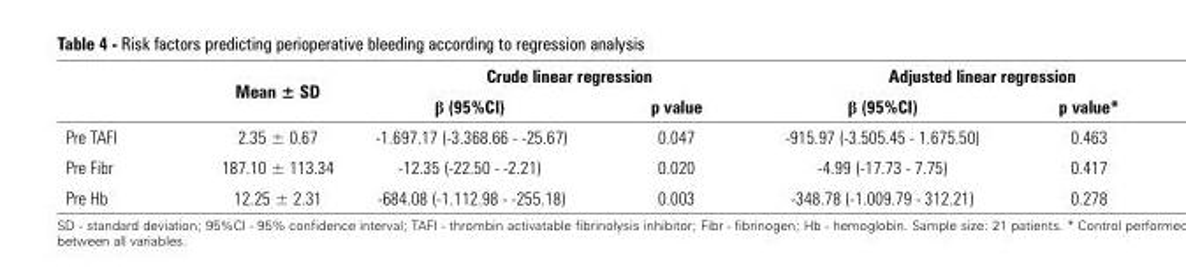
<table><thead><tr><td rowspan="2"></td><td rowspan="2">Mean ± SD</td><td colspan="2">Crude linear regression</td><td colspan="2">Adjusted linear regression</td></tr><tr><td>β (95%CI)</td><td>p value</td><td>β (95%CI)</td><td>p value*</td></tr></thead><tbody><tr><td>Pre TAFI</td><td>2.35 ± 0.67</td><td>-1.697.17 (-3.368.66 - -25.67)</td><td>0.047</td><td>-915.97 (-3.505.45 - 1.675.50)</td><td>0.463</td></tr><tr><td>Pre Fibr</td><td>187.10 ± 113.34</td><td>-12.35 (-22.50 - -2.21)</td><td>0.020</td><td>-4.99 (-17.73 - 7.75)</td><td>0.417</td></tr><tr><td>Pre Hb</td><td>12.25 ± 2.31</td><td>-684.08 (-1.112.98 - -255.18)</td><td>0.003</td><td>-348.78 (-1.009.79 - 312.21)</td><td>0.278</td></tr></tbody></table>